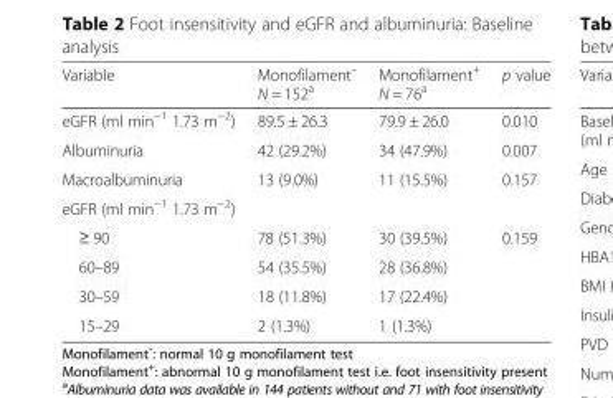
<table><thead><tr><td>Variable</td><td>Monofilament¯ N = 152<sup>a</sup></td><td>Monofilament<sup>+</sup> N = 76<sup>a</sup></td><td>p value</td></tr></thead><tbody><tr><td>eGFR (ml min<sup>−1</sup> 1.73 m<sup>−2</sup>)</td><td>89.5 ± 26.3</td><td>79.9 ± 26.0</td><td>0.010</td></tr><tr><td>Albuminuria</td><td>42 (29.2%)</td><td>34 (47.9%)</td><td>0.007</td></tr><tr><td>Macroalbuminuria</td><td>13 (9.0%)</td><td>11 (15.5%)</td><td>0.157</td></tr><tr><td colspan="4">eGFR (ml min<sup>−1</sup> 1.73 m<sup>−2</sup>)</td></tr><tr><td>≥ 90</td><td>78 (51.3%)</td><td>30 (39.5%)</td><td>0.159</td></tr><tr><td>60–89</td><td>54 (35.5%)</td><td>28 (36.8%)</td><td></td></tr><tr><td>30–59</td><td>18 (11.8%)</td><td>17 (22.4%)</td><td></td></tr><tr><td>15–29</td><td>2 (1.3%)</td><td>1 (1.3%)</td><td></td></tr></tbody></table>